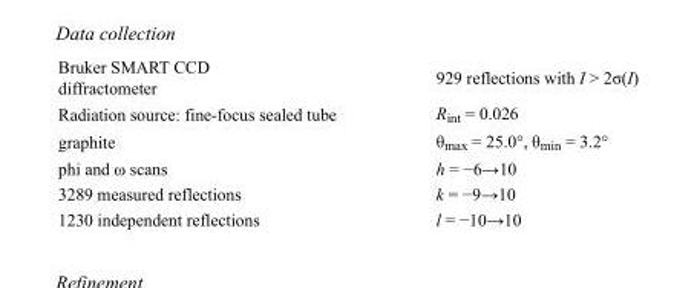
<table><tbody><tr><td>Bruker SMART CCD diffractometer</td><td>929 reflections with I &gt; 2σ(I)</td></tr><tr><td>Radiation source: fine-focus sealed tube</td><td>R<sub>int</sub> = 0.026</td></tr><tr><td>graphite</td><td>θ<sub>max</sub> = 25.0°, θ<sub>min</sub> = 3.2°</td></tr><tr><td>phi and ω scans</td><td>h = −6→10</td></tr><tr><td>3289 measured reflections</td><td>k = −9→10</td></tr><tr><td>1230 independent reflections</td><td>l = −10→10</td></tr></tbody></table>